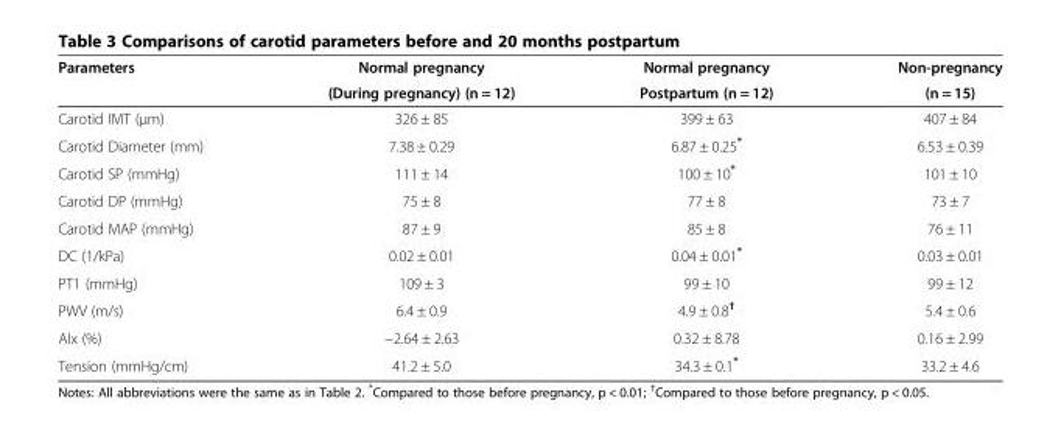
<table><thead><tr><td rowspan="2">Parameters</td><td rowspan="2">Normal pregnancy (During pregnancy) (n = 12)</td><td rowspan="2">Normal pregnancy Postpartum (n = 12)</td><td rowspan="2">Non-pregnancy (n = 15)</td></tr><tr></tr></thead><tbody><tr><td>Carotid IMT (μm)</td><td>326 ± 85</td><td>399 ± 63</td><td>407 ± 84</td></tr><tr><td>Carotid Diameter (mm)</td><td>7.38 ± 0.29</td><td>6.87 ± 0.25*</td><td>6.53 ± 0.39</td></tr><tr><td>Carotid SP (mmHg)</td><td>111 ± 14</td><td>100 ± 10*</td><td>101 ± 10</td></tr><tr><td>Carotid DP (mmHg)</td><td>75 ± 8</td><td>77 ± 8</td><td>73 ± 7</td></tr><tr><td>Carotid MAP (mmHg)</td><td>87 ± 9</td><td>85 ± 8</td><td>76 ± 11</td></tr><tr><td>DC (1/kPa)</td><td>0.02 ± 0.01</td><td>0.04 ± 0.01*</td><td>0.03 ± 0.01</td></tr><tr><td>PT1 (mmHg)</td><td>109 ± 3</td><td>99 ± 10</td><td>99 ± 12</td></tr><tr><td>PWV (m/s)</td><td>6.4 ± 0.9</td><td>4.9 ± 0.8<sup>†</sup></td><td>5.4 ± 0.6</td></tr><tr><td>AIx (%)</td><td>−2.64 ± 2.63</td><td>0.32 ± 8.78</td><td>0.16 ± 2.99</td></tr><tr><td>Tension (mmHg/cm)</td><td>41.2 ± 5.0</td><td>34.3 ± 0.1*</td><td>33.2 ± 4.6</td></tr></tbody></table>